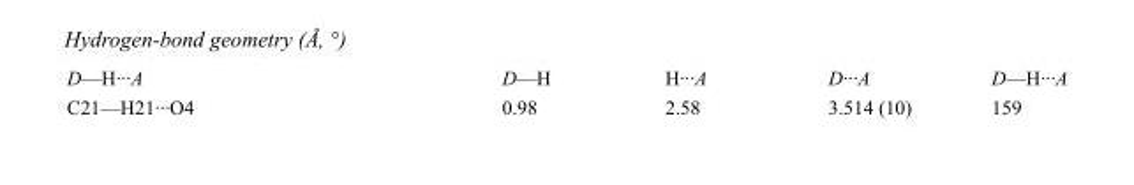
<table><tbody><tr><td>D—H···A</td><td>D—H</td><td>H···A</td><td>D···A</td><td>D—H···A</td></tr><tr><td>C21—H21···O4</td><td>0.98</td><td>2.58</td><td>3.514 (10)</td><td>159</td></tr></tbody></table>